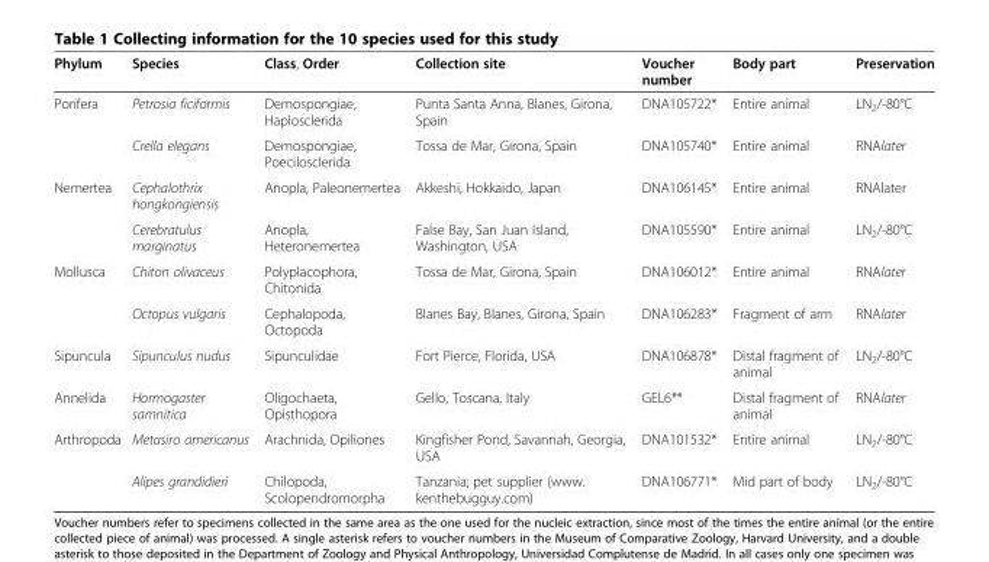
<table><thead><tr><td>Phylum</td><td>Species</td><td>Class, Order</td><td>Collection site</td><td>Voucher number</td><td>Body part</td><td>Preservation</td></tr></thead><tbody><tr><td rowspan="2">Porifera</td><td>Petrosia ficiformis</td><td>Demospongiae, Haplosclerida</td><td>Punta Santa Anna, Blanes, Girona, Spain</td><td>DNA105722*</td><td>Entire animal</td><td>LN<sub>2</sub>/-80°C</td></tr><tr><td>Crella elegans</td><td>Demospongiae, Poecilosclerida</td><td>Tossa de Mar, Girona, Spain</td><td>DNA105740*</td><td>Entire animal</td><td>RNAlater</td></tr><tr><td rowspan="2">Nemertea</td><td>Cephalothrix hongkongiensis</td><td>Anopla, Paleonemertea</td><td>Akkeshi, Hokkaido, Japan</td><td>DNA106145*</td><td>Entire animal</td><td>RNAlater</td></tr><tr><td>Cerebratulus marginatus</td><td>Anopla, Heteronemertea</td><td>False Bay, San Juan Island, Washington, USA</td><td>DNA105590*</td><td>Entire animal</td><td>LN<sub>2</sub>/-80°C</td></tr><tr><td rowspan="2">Mollusca</td><td>Chiton olivaceus</td><td>Polyplacophora, Chitonida</td><td>Tossa de Mar, Girona, Spain</td><td>DNA106012*</td><td>Entire animal</td><td>RNAlater</td></tr><tr><td>Octopus vulgaris</td><td>Cephalopoda, Octopoda</td><td>Blanes Bay, Blanes, Girona, Spain</td><td>DNA106283*</td><td>Fragment of arm</td><td>RNAlater</td></tr><tr><td>Sipuncula</td><td>Sipunculus nudus</td><td>Sipunculidae</td><td>Fort Pierce, Florida, USA</td><td>DNA106878*</td><td>Distal fragment of animal</td><td>LN<sub>2</sub>/-80°C</td></tr><tr><td>Annelida</td><td>Hormogaster samnitica</td><td>Oligochaeta, Opisthopora</td><td>Gello, Toscana, Italy</td><td>GEL6**</td><td>Distal fragment of animal</td><td>RNAlater</td></tr><tr><td rowspan="2">Arthropoda</td><td>Metasiro americanus</td><td>Arachnida, Opiliones</td><td>Kingfisher Pond, Savannah, Georgia, USA</td><td>DNA101532*</td><td>Entire animal</td><td>LN<sub>2</sub>/-80°C</td></tr><tr><td>Alipes grandidieri</td><td>Chilopoda, Scolopendromorpha</td><td>Tanzania; pet supplier (www. kenthebugguy.com)</td><td>DNA106771*</td><td>Mid part of body</td><td>LN<sub>2</sub>/-80°C</td></tr></tbody></table>